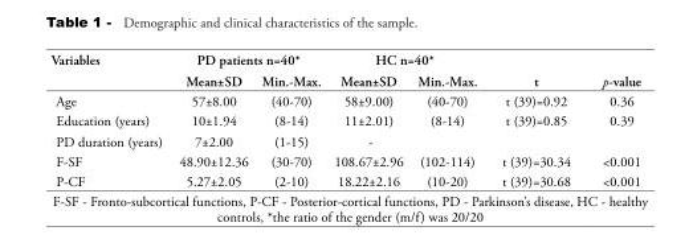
<table><thead><tr><td rowspan="2">Variables</td><td colspan="2">PD patients n=40*</td><td colspan="2">HC n=40*</td><td rowspan="2">t</td><td rowspan="2">p-value</td></tr><tr><td>Mean±SD</td><td>Min.-Max.</td><td>Mean±SD</td><td>Min.-Max.</td></tr></thead><tbody><tr><td>Age</td><td>57±8.00</td><td>(40-70)</td><td>58±9.00)</td><td>(40-70)</td><td>t (39)=0.92</td><td>0.36</td></tr><tr><td>Education (years)</td><td>10±1.94</td><td>(8-14)</td><td>11±2.01)</td><td>(8-14)</td><td>t (39)=0.85</td><td>0.39</td></tr><tr><td>PD duration (years)</td><td>7±2.00</td><td>(1-15)</td><td>-</td><td></td><td></td><td></td></tr><tr><td>F-SF</td><td>48.90±12.36</td><td>(30-70)</td><td>108.67±2.96</td><td>(102-114)</td><td>t (39)=30.34</td><td>&lt;0.001</td></tr><tr><td>P-CF</td><td>5.27±2.05</td><td>(2-10)</td><td>18.22±2.16</td><td>(10-20)</td><td>t (39)=30.68</td><td>&lt;0.001</td></tr></tbody></table>